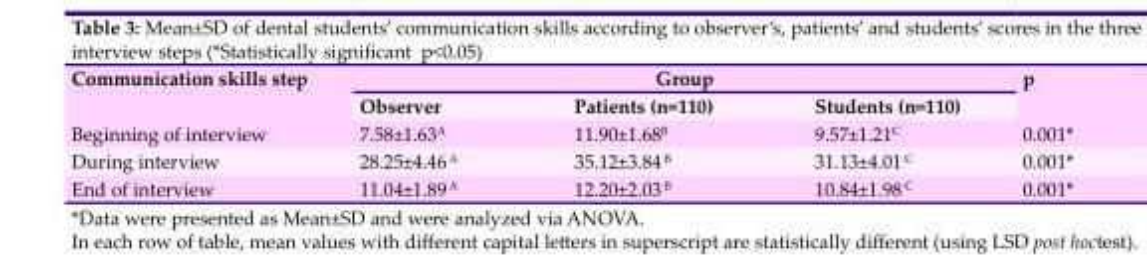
<table><thead><tr><td rowspan="2">Communication skills step</td><td colspan="3">Group</td><td rowspan="2">p</td></tr><tr><td>Observer</td><td>Patients (n=110)</td><td>Students (n=110)</td></tr></thead><tbody><tr><td>Beginning of interview</td><td>7.58±1.63<sup>A</sup></td><td>11.90±1.68<sup>B</sup></td><td>9.57±1.21<sup>C</sup></td><td>0.001*</td></tr><tr><td>During interview</td><td>28.25±4.46 <sup>A</sup></td><td>35.12±3.84 <sup>B</sup></td><td>31.13±4.01 <sup>C</sup></td><td>0.001*</td></tr><tr><td>End of interview</td><td>11.04±1.89 <sup>A</sup></td><td>12.20±2.03 <sup>B</sup></td><td>10.84±1.98 <sup>C</sup></td><td>0.001*</td></tr></tbody></table>